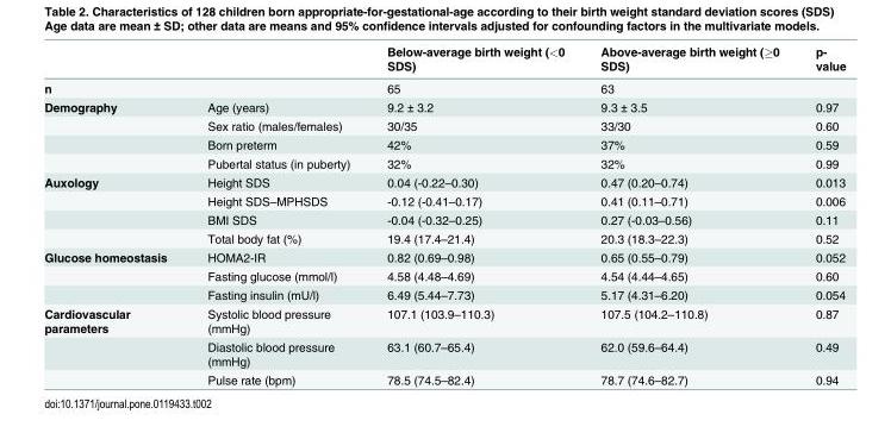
<table><thead><tr><td></td><td></td><td>Below-average birth weight (&lt;0 SDS)</td><td>Above-average birth weight (≥0 SDS)</td><td>p- value</td></tr></thead><tbody><tr><td>n</td><td></td><td>65</td><td>63</td><td></td></tr><tr><td rowspan="4">Demography</td><td>Age (years)</td><td>9.2 ± 3.2</td><td>9.3 ± 3.5</td><td>0.97</td></tr><tr><td>Sex ratio (males/females)</td><td>30/35</td><td>33/30</td><td>0.60</td></tr><tr><td>Born preterm</td><td>42%</td><td>37%</td><td>0.59</td></tr><tr><td>Pubertal status (in puberty)</td><td>32%</td><td>32%</td><td>0.99</td></tr><tr><td rowspan="4">Auxology</td><td>Height SDS</td><td>0.04 (-0.22–0.30)</td><td>0.47 (0.20–0.74)</td><td>0.013</td></tr><tr><td>Height SDS–MPHSDS</td><td>-0.12 (-0.41–0.17)</td><td>0.41 (0.11–0.71)</td><td>0.006</td></tr><tr><td>BMI SDS</td><td>-0.04 (-0.32–0.25)</td><td>0.27 (-0.03–0.56)</td><td>0.11</td></tr><tr><td>Total body fat (%)</td><td>19.4 (17.4–21.4)</td><td>20.3 (18.3–22.3)</td><td>0.52</td></tr><tr><td rowspan="3">Glucose homeostasis</td><td>HOMA2-IR</td><td>0.82 (0.69–0.98)</td><td>0.65 (0.55–0.79)</td><td>0.052</td></tr><tr><td>Fasting glucose (mmol/l)</td><td>4.58 (4.48–4.69)</td><td>4.54 (4.44–4.65)</td><td>0.60</td></tr><tr><td>Fasting insulin (mU/l)</td><td>6.49 (5.44–7.73)</td><td>5.17 (4.31–6.20)</td><td>0.054</td></tr><tr><td rowspan="3">Cardiovascular parameters</td><td>Systolic blood pressure (mmHg)</td><td>107.1 (103.9–110.3)</td><td>107.5 (104.2–110.8)</td><td>0.87</td></tr><tr><td>Diastolic blood pressure (mmHg)</td><td>63.1 (60.7–65.4)</td><td>62.0 (59.6–64.4)</td><td>0.49</td></tr><tr><td>Pulse rate (bpm)</td><td>78.5 (74.5–82.4)</td><td>78.7 (74.6–82.7)</td><td>0.94</td></tr></tbody></table>